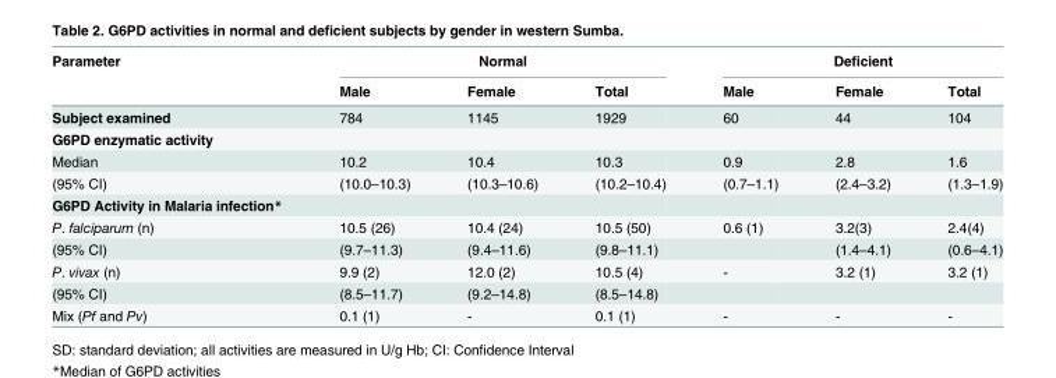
<table><thead><tr><td rowspan="2">Parameter</td><td colspan="3">Normal</td><td colspan="3">Deficient</td></tr><tr><td>Male</td><td>Female</td><td>Total</td><td>Male</td><td>Female</td><td>Total</td></tr></thead><tbody><tr><td>Subject examined</td><td>784</td><td>1145</td><td>1929</td><td>60</td><td>44</td><td>104</td></tr><tr><td colspan="7">G6PD enzymatic activity</td></tr><tr><td>Median</td><td>10.2</td><td>10.4</td><td>10.3</td><td>0.9</td><td>2.8</td><td>1.6</td></tr><tr><td>(95% CI)</td><td>(10.0–10.3)</td><td>(10.3–10.6)</td><td>(10.2–10.4)</td><td>(0.7–1.1)</td><td>(2.4–3.2)</td><td>(1.3–1.9)</td></tr><tr><td colspan="7">G6PD Activity in Malaria infection*</td></tr><tr><td>P. falciparum (n)</td><td>10.5 (26)</td><td>10.4 (24)</td><td>10.5 (50)</td><td>0.6 (1)</td><td>3.2(3)</td><td>2.4(4)</td></tr><tr><td>(95% CI)</td><td>(9.7–11.3)</td><td>(9.4–11.6)</td><td>(9.8–11.1)</td><td></td><td>(1.4–4.1)</td><td>(0.6–4.1)</td></tr><tr><td>P. vivax (n)</td><td>9.9 (2)</td><td>12.0 (2)</td><td>10.5 (4)</td><td>-</td><td>3.2 (1)</td><td>3.2 (1)</td></tr><tr><td>(95% CI)</td><td>(8.5–11.7)</td><td>(9.2–14.8)</td><td>(8.5–14.8)</td><td></td><td></td><td></td></tr><tr><td>Mix (Pf and Pv)</td><td>0.1 (1)</td><td>-</td><td>0.1 (1)</td><td>-</td><td>-</td><td>-</td></tr></tbody></table>